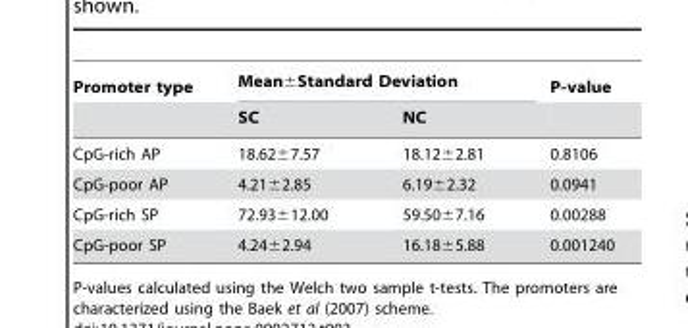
<table><thead><tr><td rowspan="2">Promoter type</td><td colspan="2">Mean±Standard Deviation</td><td rowspan="2">P-value</td></tr><tr><td>SC</td><td>NC</td></tr></thead><tbody><tr><td>CpG-rich AP</td><td>18.62±7.57</td><td>18.12±2.81</td><td>0.8106</td></tr><tr><td>CpG-poor AP</td><td>4.21±2.85</td><td>6.19±2.32</td><td>0.0941</td></tr><tr><td>CpG-rich SP</td><td>72.93±12.00</td><td>59.50±7.16</td><td>0.00288</td></tr><tr><td>CpG-poor SP</td><td>4.24±2.94</td><td>16.18±5.88</td><td>0.001240</td></tr></tbody></table>